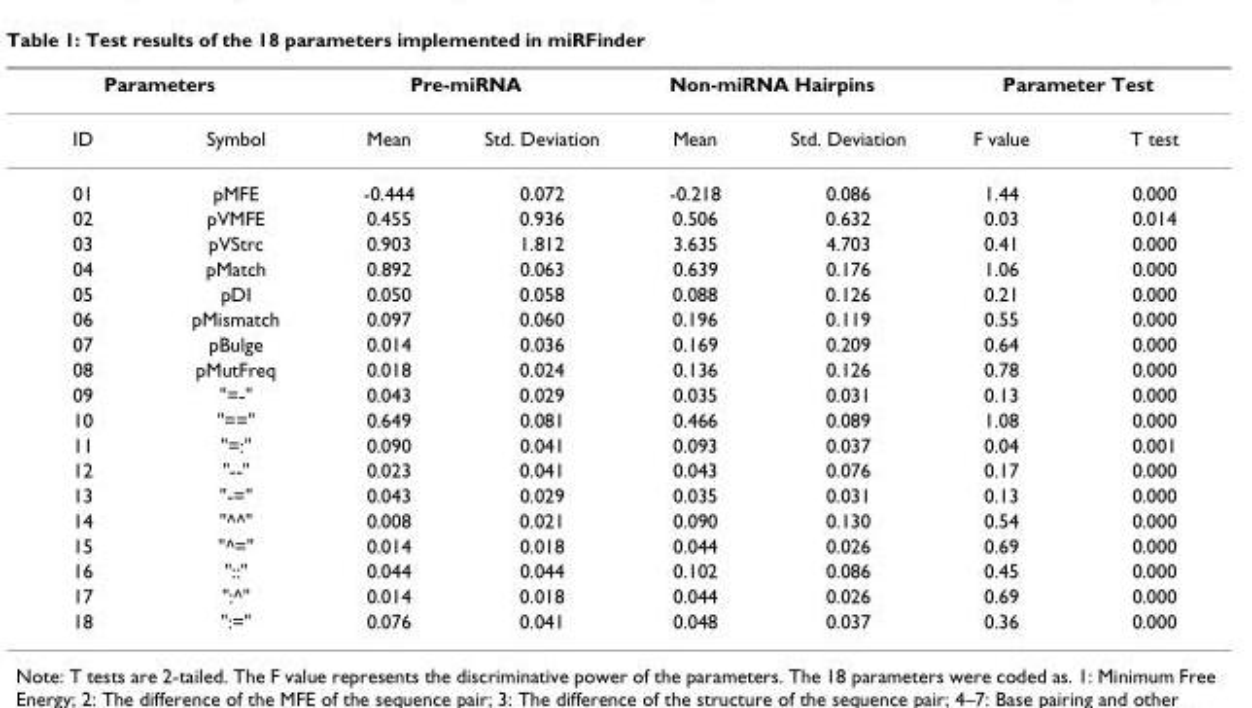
<table><thead><tr><td colspan="2">Parameters</td><td colspan="2">Pre-miRNA</td><td colspan="2">Non-miRNA Hairpins</td><td colspan="2">Parameter Test</td></tr><tr><td>ID</td><td>Symbol</td><td>Mean</td><td>Std. Deviation</td><td>Mean</td><td>Std. Deviation</td><td>F value</td><td>T test</td></tr></thead><tbody><tr><td>01</td><td>pMFE</td><td>-0.444</td><td>0.072</td><td>-0.218</td><td>0.086</td><td>1.44</td><td>0.000</td></tr><tr><td>02</td><td>pVMFE</td><td>0.455</td><td>0.936</td><td>0.506</td><td>0.632</td><td>0.03</td><td>0.014</td></tr><tr><td>03</td><td>pVStrc</td><td>0.903</td><td>1.812</td><td>3.635</td><td>4.703</td><td>0.41</td><td>0.000</td></tr><tr><td>04</td><td>pMatch</td><td>0.892</td><td>0.063</td><td>0.639</td><td>0.176</td><td>1.06</td><td>0.000</td></tr><tr><td>05</td><td>pDI</td><td>0.050</td><td>0.058</td><td>0.088</td><td>0.126</td><td>0.21</td><td>0.000</td></tr><tr><td>06</td><td>pMismatch</td><td>0.097</td><td>0.060</td><td>0.196</td><td>0.119</td><td>0.55</td><td>0.000</td></tr><tr><td>07</td><td>pBulge</td><td>0.014</td><td>0.036</td><td>0.169</td><td>0.209</td><td>0.64</td><td>0.000</td></tr><tr><td>08</td><td>pMutFreq</td><td>0.018</td><td>0.024</td><td>0.136</td><td>0.126</td><td>0.78</td><td>0.000</td></tr><tr><td>09</td><td>&quot;=-&quot;</td><td>0.043</td><td>0.029</td><td>0.035</td><td>0.031</td><td>0.13</td><td>0.000</td></tr><tr><td>10</td><td>&quot;==&quot;</td><td>0.649</td><td>0.081</td><td>0.466</td><td>0.089</td><td>1.08</td><td>0.000</td></tr><tr><td>11</td><td>&quot;=:&quot;</td><td>0.090</td><td>0.041</td><td>0.093</td><td>0.037</td><td>0.04</td><td>0.001</td></tr><tr><td>12</td><td>&quot;--&quot;</td><td>0.023</td><td>0.041</td><td>0.043</td><td>0.076</td><td>0.17</td><td>0.000</td></tr><tr><td>13</td><td>&quot;-=&quot;</td><td>0.043</td><td>0.029</td><td>0.035</td><td>0.031</td><td>0.13</td><td>0.000</td></tr><tr><td>14</td><td>&quot;^^&quot;</td><td>0.008</td><td>0.021</td><td>0.090</td><td>0.130</td><td>0.54</td><td>0.000</td></tr><tr><td>15</td><td>&quot;^=&quot;</td><td>0.014</td><td>0.018</td><td>0.044</td><td>0.026</td><td>0.69</td><td>0.000</td></tr><tr><td>16</td><td>&quot;::&quot;</td><td>0.044</td><td>0.044</td><td>0.102</td><td>0.086</td><td>0.45</td><td>0.000</td></tr><tr><td>17</td><td>&quot;:^&quot;</td><td>0.014</td><td>0.018</td><td>0.044</td><td>0.026</td><td>0.69</td><td>0.000</td></tr><tr><td>18</td><td>&quot;:=&quot;</td><td>0.076</td><td>0.041</td><td>0.048</td><td>0.037</td><td>0.36</td><td>0.000</td></tr></tbody></table>